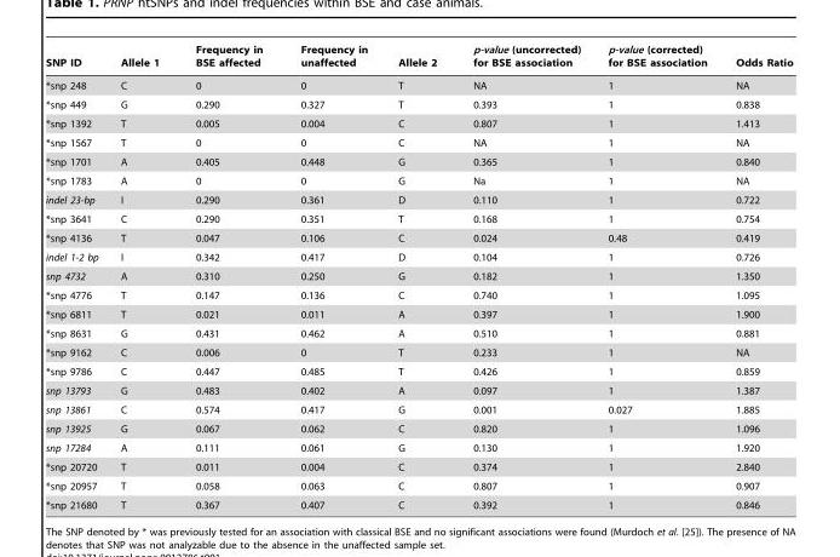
<table><thead><tr><td>SNP ID</td><td>Allele 1</td><td>Frequency in BSE affected</td><td>Frequency in unaffected</td><td>Allele 2</td><td>p-value (uncorrected) for BSE association</td><td>p-value (corrected) for BSE association</td><td>Odds Ratio</td></tr></thead><tbody><tr><td>*snp 248</td><td>C</td><td>0</td><td>0</td><td>T</td><td>NA</td><td>1</td><td>NA</td></tr><tr><td>*snp 449</td><td>G</td><td>0.290</td><td>0.327</td><td>T</td><td>0.393</td><td>1</td><td>0.838</td></tr><tr><td>*snp 1392</td><td>T</td><td>0.005</td><td>0.004</td><td>C</td><td>0.807</td><td>1</td><td>1.413</td></tr><tr><td>*snp 1567</td><td>T</td><td>0</td><td>0</td><td>C</td><td>NA</td><td>1</td><td>NA</td></tr><tr><td>*snp 1701</td><td>A</td><td>0.405</td><td>0.448</td><td>G</td><td>0.365</td><td>1</td><td>0.840</td></tr><tr><td>*snp 1783</td><td>A</td><td>0</td><td>0</td><td>G</td><td>Na</td><td>1</td><td>NA</td></tr><tr><td>indel 23-bp</td><td>I</td><td>0.290</td><td>0.361</td><td>D</td><td>0.110</td><td>1</td><td>0.722</td></tr><tr><td>*snp 3641</td><td>C</td><td>0.290</td><td>0.351</td><td>T</td><td>0.168</td><td>1</td><td>0.754</td></tr><tr><td>*snp 4136</td><td>T</td><td>0.047</td><td>0.106</td><td>C</td><td>0.024</td><td>0.48</td><td>0.419</td></tr><tr><td>indel 1-2 bp</td><td>I</td><td>0.342</td><td>0.417</td><td>D</td><td>0.104</td><td>1</td><td>0.726</td></tr><tr><td>snp 4732</td><td>A</td><td>0.310</td><td>0.250</td><td>G</td><td>0.182</td><td>1</td><td>1.350</td></tr><tr><td>*snp 4776</td><td>T</td><td>0.147</td><td>0.136</td><td>C</td><td>0.740</td><td>1</td><td>1.095</td></tr><tr><td>*snp 6811</td><td>T</td><td>0.021</td><td>0.011</td><td>A</td><td>0.397</td><td>1</td><td>1.900</td></tr><tr><td>*snp 8631</td><td>G</td><td>0.431</td><td>0.462</td><td>A</td><td>0.510</td><td>1</td><td>0.881</td></tr><tr><td>*snp 9162</td><td>C</td><td>0.006</td><td>0</td><td>T</td><td>0.233</td><td>1</td><td>NA</td></tr><tr><td>*snp 9786</td><td>C</td><td>0.447</td><td>0.485</td><td>T</td><td>0.426</td><td>1</td><td>0.859</td></tr><tr><td>snp 13793</td><td>G</td><td>0.483</td><td>0.402</td><td>A</td><td>0.097</td><td>1</td><td>1.387</td></tr><tr><td>snp 13861</td><td>C</td><td>0.574</td><td>0.417</td><td>G</td><td>0.001</td><td>0.027</td><td>1.885</td></tr><tr><td>snp 13925</td><td>G</td><td>0.067</td><td>0.062</td><td>C</td><td>0.820</td><td>1</td><td>1.096</td></tr><tr><td>snp 17284</td><td>A</td><td>0.111</td><td>0.061</td><td>G</td><td>0.130</td><td>1</td><td>1.920</td></tr><tr><td>*snp 20720</td><td>T</td><td>0.011</td><td>0.004</td><td>C</td><td>0.374</td><td>1</td><td>2.840</td></tr><tr><td>*snp 20957</td><td>T</td><td>0.058</td><td>0.063</td><td>C</td><td>0.807</td><td>1</td><td>0.907</td></tr><tr><td>*snp 21680</td><td>T</td><td>0.367</td><td>0.407</td><td>C</td><td>0.392</td><td>1</td><td>0.846</td></tr></tbody></table>